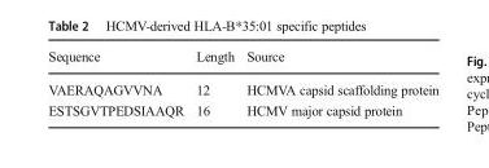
<table><thead><tr><td>Sequence</td><td>Length</td><td>Source</td></tr></thead><tbody><tr><td>VAERAQAGVVNA</td><td>12</td><td>HCMVA capsid scaffolding protein</td></tr><tr><td>ESTSGVTPEDSIAAQR</td><td>16</td><td>HCMV major capsid protein</td></tr></tbody></table>